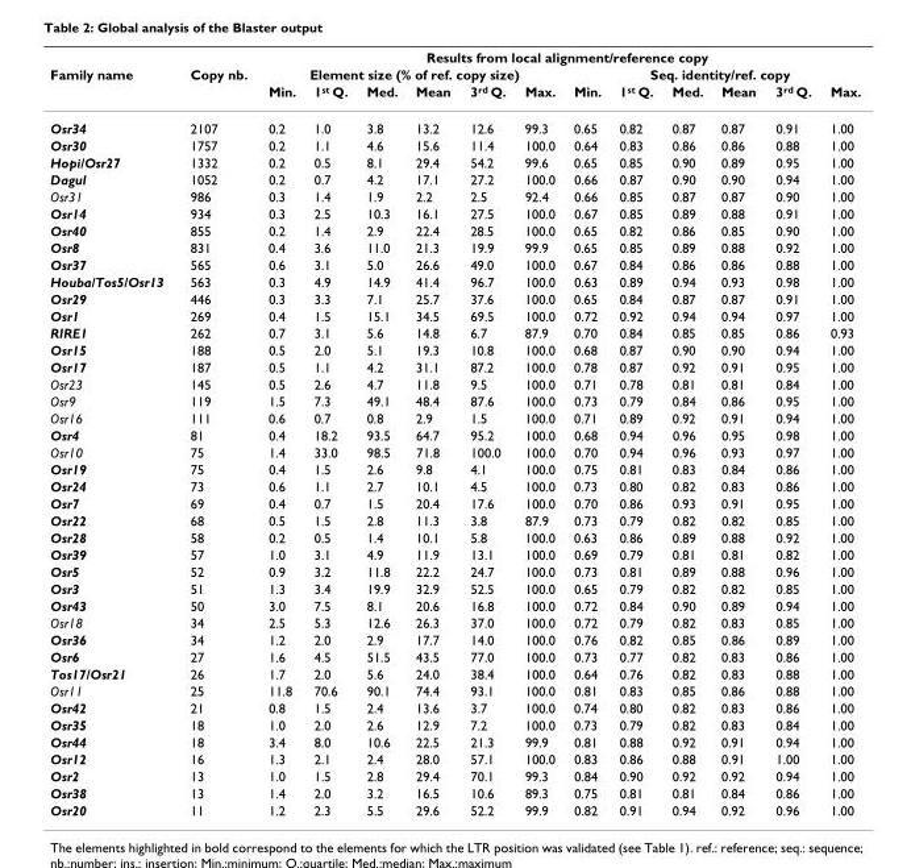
<table><thead><tr><td rowspan="3">Family name</td><td rowspan="3">Copy nb.</td><td colspan="12">Results from local alignment/reference copy</td></tr><tr><td colspan="6">Element size (% of ref. copy size)</td><td colspan="6">Seq. identity/ref. copy</td></tr><tr><td>Min.</td><td>1<sup>st</sup> Q.</td><td>Med.</td><td>Mean</td><td>3<sup>rd</sup> Q.</td><td>Max.</td><td>Min.</td><td>1<sup>st</sup> Q.</td><td>Med.</td><td>Mean</td><td>3<sup>rd</sup> Q.</td><td>Max.</td></tr></thead><tbody><tr><td>Osr34</td><td>2107</td><td>0.2</td><td>1.0</td><td>3.8</td><td>13.2</td><td>12.6</td><td>99.3</td><td>0.65</td><td>0.82</td><td>0.87</td><td>0.87</td><td>0.91</td><td>1.00</td></tr><tr><td>Osr30</td><td>1757</td><td>0.2</td><td>1.1</td><td>4.6</td><td>15.6</td><td>11.4</td><td>100.0</td><td>0.64</td><td>0.83</td><td>0.86</td><td>0.86</td><td>0.88</td><td>1.00</td></tr><tr><td>Hopi/Osr27</td><td>1332</td><td>0.2</td><td>0.5</td><td>8.1</td><td>29.4</td><td>54.2</td><td>99.6</td><td>0.65</td><td>0.85</td><td>0.90</td><td>0.89</td><td>0.95</td><td>1.00</td></tr><tr><td>Dagul</td><td>1052</td><td>0.2</td><td>0.7</td><td>4.2</td><td>17.1</td><td>27.2</td><td>100.0</td><td>0.66</td><td>0.87</td><td>0.90</td><td>0.90</td><td>0.94</td><td>1.00</td></tr><tr><td>Osr31</td><td>986</td><td>0.3</td><td>1.4</td><td>1.9</td><td>2.2</td><td>2.5</td><td>92.4</td><td>0.66</td><td>0.85</td><td>0.87</td><td>0.87</td><td>0.90</td><td>1.00</td></tr><tr><td>Osr14</td><td>934</td><td>0.3</td><td>2.5</td><td>10.3</td><td>16.1</td><td>27.5</td><td>100.0</td><td>0.67</td><td>0.85</td><td>0.89</td><td>0.88</td><td>0.91</td><td>1.00</td></tr><tr><td>Osr40</td><td>855</td><td>0.2</td><td>1.4</td><td>2.9</td><td>22.4</td><td>28.5</td><td>100.0</td><td>0.65</td><td>0.82</td><td>0.86</td><td>0.85</td><td>0.90</td><td>1.00</td></tr><tr><td>Osr8</td><td>831</td><td>0.4</td><td>3.6</td><td>11.0</td><td>21.3</td><td>19.9</td><td>99.9</td><td>0.65</td><td>0.85</td><td>0.89</td><td>0.88</td><td>0.92</td><td>1.00</td></tr><tr><td>Osr37</td><td>565</td><td>0.6</td><td>3.1</td><td>5.0</td><td>26.6</td><td>49.0</td><td>100.0</td><td>0.67</td><td>0.84</td><td>0.86</td><td>0.86</td><td>0.88</td><td>1.00</td></tr><tr><td>Houba/Tos5/Osr13</td><td>563</td><td>0.3</td><td>4.9</td><td>14.9</td><td>41.4</td><td>96.7</td><td>100.0</td><td>0.63</td><td>0.89</td><td>0.94</td><td>0.93</td><td>0.98</td><td>1.00</td></tr><tr><td>Osr29</td><td>446</td><td>0.3</td><td>3.3</td><td>7.1</td><td>25.7</td><td>37.6</td><td>100.0</td><td>0.65</td><td>0.84</td><td>0.87</td><td>0.87</td><td>0.91</td><td>1.00</td></tr><tr><td>Osr1</td><td>269</td><td>0.4</td><td>1.5</td><td>15.1</td><td>34.5</td><td>69.5</td><td>100.0</td><td>0.72</td><td>0.92</td><td>0.94</td><td>0.94</td><td>0.97</td><td>1.00</td></tr><tr><td>RIRE1</td><td>262</td><td>0.7</td><td>3.1</td><td>5.6</td><td>14.8</td><td>6.7</td><td>87.9</td><td>0.70</td><td>0.84</td><td>0.85</td><td>0.85</td><td>0.86</td><td>0.93</td></tr><tr><td>Osr15</td><td>188</td><td>0.5</td><td>2.0</td><td>5.1</td><td>19.3</td><td>10.8</td><td>100.0</td><td>0.68</td><td>0.87</td><td>0.90</td><td>0.90</td><td>0.94</td><td>1.00</td></tr><tr><td>Osr17</td><td>187</td><td>0.5</td><td>1.1</td><td>4.2</td><td>31.1</td><td>87.2</td><td>100.0</td><td>0.78</td><td>0.87</td><td>0.92</td><td>0.91</td><td>0.95</td><td>1.00</td></tr><tr><td>Osr23</td><td>145</td><td>0.5</td><td>2.6</td><td>4.7</td><td>11.8</td><td>9.5</td><td>100.0</td><td>0.71</td><td>0.78</td><td>0.81</td><td>0.81</td><td>0.84</td><td>1.00</td></tr><tr><td>Osr9</td><td>119</td><td>1.5</td><td>7.3</td><td>49.1</td><td>48.4</td><td>87.6</td><td>100.0</td><td>0.73</td><td>0.79</td><td>0.84</td><td>0.86</td><td>0.95</td><td>1.00</td></tr><tr><td>Osr16</td><td>111</td><td>0.6</td><td>0.7</td><td>0.8</td><td>2.9</td><td>1.5</td><td>100.0</td><td>0.71</td><td>0.89</td><td>0.92</td><td>0.91</td><td>0.94</td><td>1.00</td></tr><tr><td>Osr4</td><td>81</td><td>0.4</td><td>18.2</td><td>93.5</td><td>64.7</td><td>95.2</td><td>100.0</td><td>0.68</td><td>0.94</td><td>0.96</td><td>0.95</td><td>0.98</td><td>1.00</td></tr><tr><td>Osr10</td><td>75</td><td>1.4</td><td>33.0</td><td>98.5</td><td>71.8</td><td>100.0</td><td>100.0</td><td>0.70</td><td>0.94</td><td>0.96</td><td>0.93</td><td>0.97</td><td>1.00</td></tr><tr><td>Osr19</td><td>75</td><td>0.4</td><td>1.5</td><td>2.6</td><td>9.8</td><td>4.1</td><td>100.0</td><td>0.75</td><td>0.81</td><td>0.83</td><td>0.84</td><td>0.86</td><td>1.00</td></tr><tr><td>Osr24</td><td>73</td><td>0.6</td><td>1.1</td><td>2.7</td><td>10.1</td><td>4.5</td><td>100.0</td><td>0.73</td><td>0.80</td><td>0.82</td><td>0.83</td><td>0.86</td><td>1.00</td></tr><tr><td>Osr7</td><td>69</td><td>0.4</td><td>0.7</td><td>1.5</td><td>20.4</td><td>17.6</td><td>100.0</td><td>0.70</td><td>0.86</td><td>0.93</td><td>0.91</td><td>0.95</td><td>1.00</td></tr><tr><td>Osr22</td><td>68</td><td>0.5</td><td>1.5</td><td>2.8</td><td>11.3</td><td>3.8</td><td>87.9</td><td>0.73</td><td>0.79</td><td>0.82</td><td>0.82</td><td>0.85</td><td>1.00</td></tr><tr><td>Osr28</td><td>58</td><td>0.2</td><td>0.5</td><td>1.4</td><td>10.1</td><td>5.8</td><td>100.0</td><td>0.63</td><td>0.86</td><td>0.89</td><td>0.88</td><td>0.92</td><td>1.00</td></tr><tr><td>Osr39</td><td>57</td><td>1.0</td><td>3.1</td><td>4.9</td><td>11.9</td><td>13.1</td><td>100.0</td><td>0.69</td><td>0.79</td><td>0.81</td><td>0.81</td><td>0.82</td><td>1.00</td></tr><tr><td>Osr5</td><td>52</td><td>0.9</td><td>3.2</td><td>11.8</td><td>22.2</td><td>24.7</td><td>100.0</td><td>0.73</td><td>0.81</td><td>0.89</td><td>0.88</td><td>0.96</td><td>1.00</td></tr><tr><td>Osr3</td><td>51</td><td>1.3</td><td>3.4</td><td>19.9</td><td>32.9</td><td>52.5</td><td>100.0</td><td>0.65</td><td>0.79</td><td>0.82</td><td>0.82</td><td>0.85</td><td>1.00</td></tr><tr><td>Osr43</td><td>50</td><td>3.0</td><td>7.5</td><td>8.1</td><td>20.6</td><td>16.8</td><td>100.0</td><td>0.72</td><td>0.84</td><td>0.90</td><td>0.89</td><td>0.94</td><td>1.00</td></tr><tr><td>Osr18</td><td>34</td><td>2.5</td><td>5.3</td><td>12.6</td><td>26.3</td><td>37.0</td><td>100.0</td><td>0.72</td><td>0.79</td><td>0.82</td><td>0.83</td><td>0.85</td><td>1.00</td></tr><tr><td>Osr36</td><td>34</td><td>1.2</td><td>2.0</td><td>2.9</td><td>17.7</td><td>14.0</td><td>100.0</td><td>0.76</td><td>0.82</td><td>0.85</td><td>0.86</td><td>0.89</td><td>1.00</td></tr><tr><td>Osr6</td><td>27</td><td>1.6</td><td>4.5</td><td>51.5</td><td>43.5</td><td>77.0</td><td>100.0</td><td>0.73</td><td>0.77</td><td>0.82</td><td>0.83</td><td>0.86</td><td>1.00</td></tr><tr><td>Tos17/Osr21</td><td>26</td><td>1.7</td><td>2.0</td><td>5.6</td><td>24.0</td><td>38.4</td><td>100.0</td><td>0.64</td><td>0.76</td><td>0.82</td><td>0.83</td><td>0.88</td><td>1.00</td></tr><tr><td>Osr11</td><td>25</td><td>11.8</td><td>70.6</td><td>90.1</td><td>74.4</td><td>93.1</td><td>100.0</td><td>0.81</td><td>0.83</td><td>0.85</td><td>0.86</td><td>0.88</td><td>1.00</td></tr><tr><td>Osr42</td><td>21</td><td>0.8</td><td>1.5</td><td>2.4</td><td>13.6</td><td>3.7</td><td>100.0</td><td>0.74</td><td>0.80</td><td>0.82</td><td>0.83</td><td>0.86</td><td>1.00</td></tr><tr><td>Osr35</td><td>18</td><td>1.0</td><td>2.0</td><td>2.6</td><td>12.9</td><td>7.2</td><td>100.0</td><td>0.73</td><td>0.79</td><td>0.82</td><td>0.83</td><td>0.84</td><td>1.00</td></tr><tr><td>Osr44</td><td>18</td><td>3.4</td><td>8.0</td><td>10.6</td><td>22.5</td><td>21.3</td><td>99.9</td><td>0.81</td><td>0.88</td><td>0.92</td><td>0.91</td><td>0.94</td><td>1.00</td></tr><tr><td>Osr12</td><td>16</td><td>1.3</td><td>2.1</td><td>2.4</td><td>28.0</td><td>57.1</td><td>100.0</td><td>0.83</td><td>0.86</td><td>0.88</td><td>0.91</td><td>1.00</td><td>1.00</td></tr><tr><td>Osr2</td><td>13</td><td>1.0</td><td>1.5</td><td>2.8</td><td>29.4</td><td>70.1</td><td>99.3</td><td>0.84</td><td>0.90</td><td>0.92</td><td>0.92</td><td>0.94</td><td>1.00</td></tr><tr><td>Osr38</td><td>13</td><td>1.4</td><td>2.0</td><td>3.2</td><td>16.5</td><td>10.6</td><td>89.3</td><td>0.75</td><td>0.81</td><td>0.81</td><td>0.84</td><td>0.86</td><td>1.00</td></tr><tr><td>Osr20</td><td>11</td><td>1.2</td><td>2.3</td><td>5.5</td><td>29.6</td><td>52.2</td><td>99.9</td><td>0.82</td><td>0.91</td><td>0.94</td><td>0.92</td><td>0.96</td><td>1.00</td></tr></tbody></table>